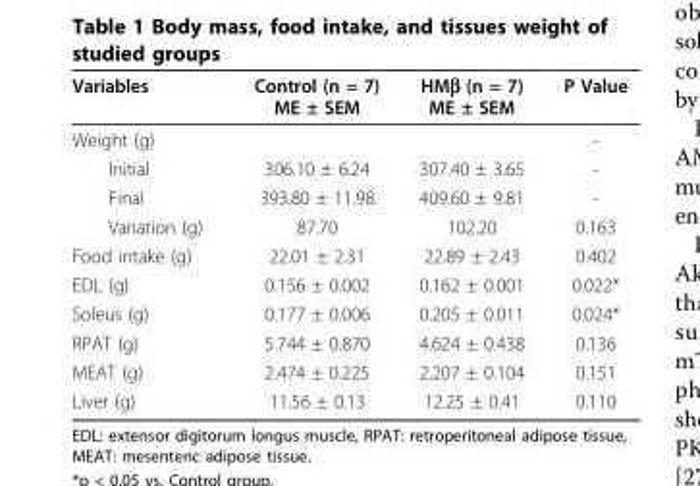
<table><thead><tr><td>Variables</td><td>Control (n = 7) ME ± SEM</td><td>HMβ (n = 7) ME ± SEM</td><td>P Value</td></tr></thead><tbody><tr><td>Weight (g)</td><td></td><td></td><td>-</td></tr><tr><td>Initial</td><td>306.10 ± 6.24</td><td>307.40 ± 3.65</td><td>-</td></tr><tr><td>Final</td><td>393.80 ± 11.98</td><td>409.60 ± 9.81</td><td>-</td></tr><tr><td>Variation (g)</td><td>87.70</td><td>102.20</td><td>0.163</td></tr><tr><td>Food intake (g)</td><td>22.01 ± 2.31</td><td>22.89 ± 2.43</td><td>0.402</td></tr><tr><td>EDL (g)</td><td>0.156 ± 0.002</td><td>0.162 ± 0.001</td><td>0.022*</td></tr><tr><td>Soleus (g)</td><td>0.177 ± 0.006</td><td>0.205 ± 0.011</td><td>0.024*</td></tr><tr><td>RPAT (g)</td><td>5.744 ± 0.870</td><td>4.624 ± 0.438</td><td>0.136</td></tr><tr><td>MEAT (g)</td><td>2.474 ± 0.225</td><td>2.207 ± 0.104</td><td>0.151</td></tr><tr><td>Liver (g)</td><td>11.56 ± 0.13</td><td>12.25 ± 0.41</td><td>0.110</td></tr></tbody></table>